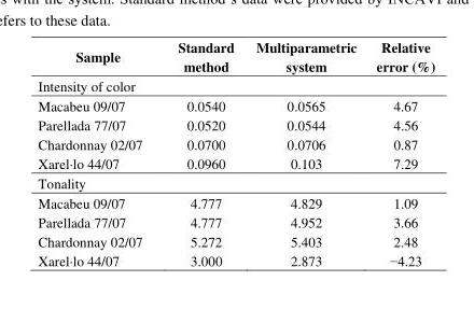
<table><thead><tr><td>Sample</td><td>Standard method</td><td>Multiparametric system</td><td>Relative error (%)</td></tr></thead><tbody><tr><td colspan="4">Intensity of color</td></tr><tr><td>Macabeu 09/07</td><td>0.0540</td><td>0.0565</td><td>4.67</td></tr><tr><td>Parellada 77/07</td><td>0.0520</td><td>0.0544</td><td>4.56</td></tr><tr><td>Chardonnay 02/07</td><td>0.0700</td><td>0.0706</td><td>0.87</td></tr><tr><td>Xarel·lo 44/07</td><td>0.0960</td><td>0.103</td><td>7.29</td></tr><tr><td colspan="4">Tonality</td></tr><tr><td>Macabeu 09/07</td><td>4.777</td><td>4.829</td><td>1.09</td></tr><tr><td>Parellada 77/07</td><td>4.777</td><td>4.952</td><td>3.66</td></tr><tr><td>Chardonnay 02/07</td><td>5.272</td><td>5.403</td><td>2.48</td></tr><tr><td>Xarel·lo 44/07</td><td>3.000</td><td>2.873</td><td>−4.23</td></tr></tbody></table>